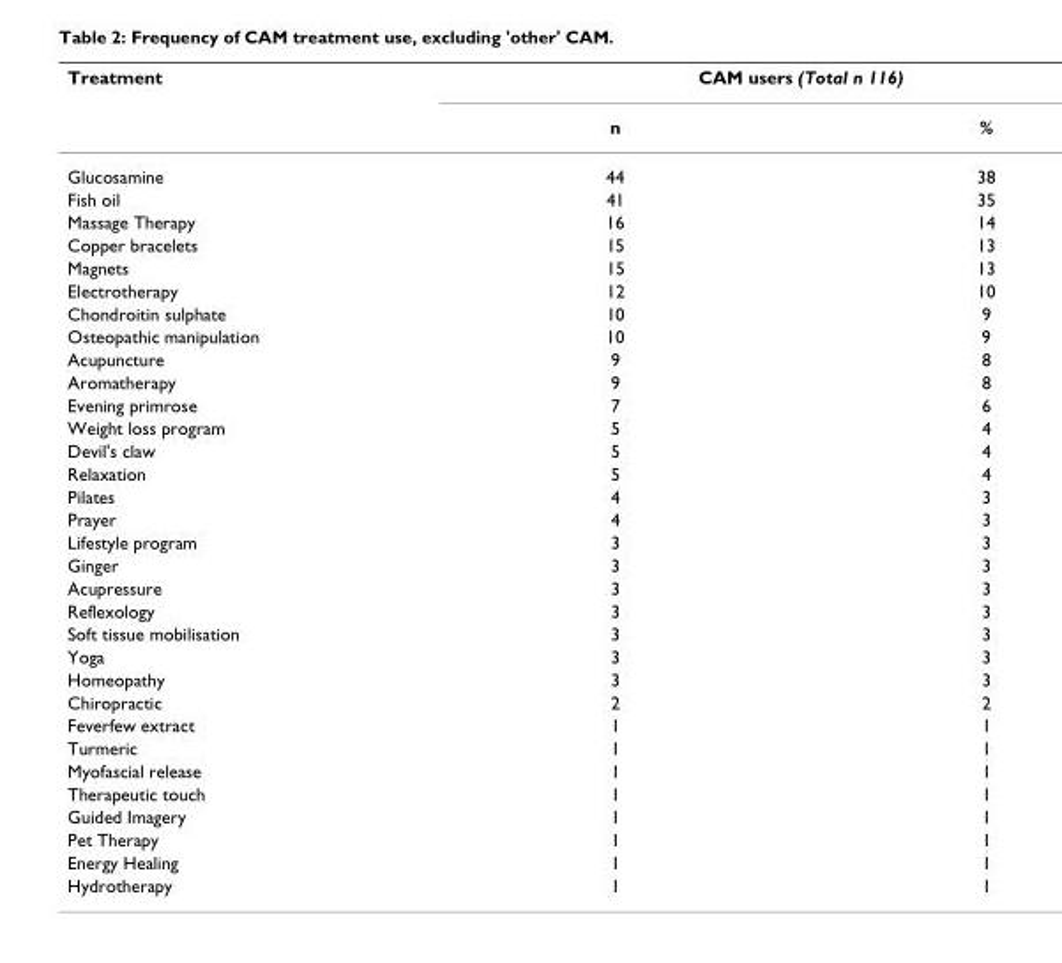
<table><thead><tr><td rowspan="2">Treatment</td><td colspan="2">CAM users (Total n 116)</td></tr><tr><td>n</td><td>%</td></tr></thead><tbody><tr><td>Glucosamine</td><td>44</td><td>38</td></tr><tr><td>Fish oil</td><td>41</td><td>35</td></tr><tr><td>Massage Therapy</td><td>16</td><td>14</td></tr><tr><td>Copper bracelets</td><td>15</td><td>13</td></tr><tr><td>Magnets</td><td>15</td><td>13</td></tr><tr><td>Electrotherapy</td><td>12</td><td>10</td></tr><tr><td>Chondroitin sulphate</td><td>10</td><td>9</td></tr><tr><td>Osteopathic manipulation</td><td>10</td><td>9</td></tr><tr><td>Acupuncture</td><td>9</td><td>8</td></tr><tr><td>Aromatherapy</td><td>9</td><td>8</td></tr><tr><td>Evening primrose</td><td>7</td><td>6</td></tr><tr><td>Weight loss program</td><td>5</td><td>4</td></tr><tr><td>Devil&#x27;s claw</td><td>5</td><td>4</td></tr><tr><td>Relaxation</td><td>5</td><td>4</td></tr><tr><td>Pilates</td><td>4</td><td>3</td></tr><tr><td>Prayer</td><td>4</td><td>3</td></tr><tr><td>Lifestyle program</td><td>3</td><td>3</td></tr><tr><td>Ginger</td><td>3</td><td>3</td></tr><tr><td>Acupressure</td><td>3</td><td>3</td></tr><tr><td>Reflexology</td><td>3</td><td>3</td></tr><tr><td>Soft tissue mobilisation</td><td>3</td><td>3</td></tr><tr><td>Yoga</td><td>3</td><td>3</td></tr><tr><td>Homeopathy</td><td>3</td><td>3</td></tr><tr><td>Chiropractic</td><td>2</td><td>2</td></tr><tr><td>Feverfew extract</td><td>1</td><td>1</td></tr><tr><td>Turmeric</td><td>1</td><td>1</td></tr><tr><td>Myofascial release</td><td>1</td><td>1</td></tr><tr><td>Therapeutic touch</td><td>1</td><td>1</td></tr><tr><td>Guided Imagery</td><td>1</td><td>1</td></tr><tr><td>Pet Therapy</td><td>1</td><td>1</td></tr><tr><td>Energy Healing</td><td>1</td><td>1</td></tr><tr><td>Hydrotherapy</td><td>1</td><td>1</td></tr></tbody></table>